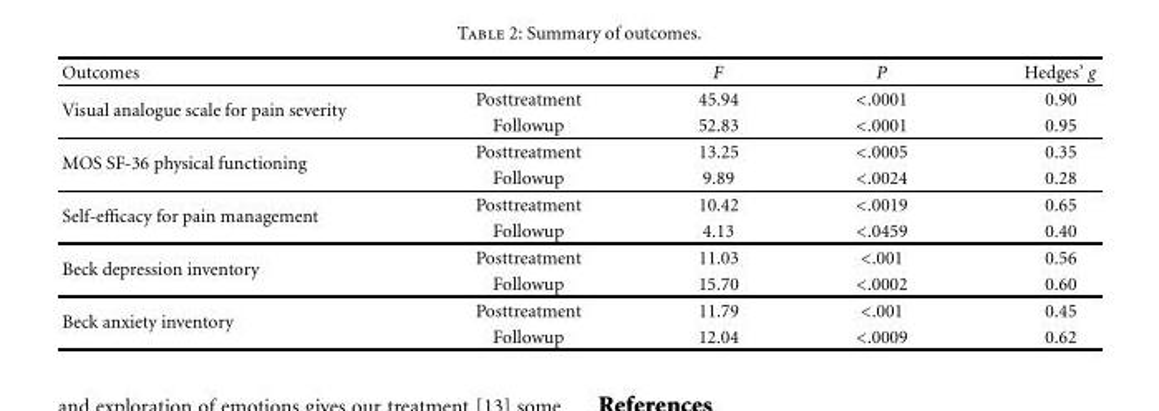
<table><thead><tr><td>Outcomes</td><td></td><td>F</td><td>P</td><td>Hedges’ g</td></tr></thead><tbody><tr><td rowspan="2">Visual analogue scale for pain severity</td><td>Posttreatment</td><td>45.94</td><td>&lt;.0001</td><td>0.90</td></tr><tr><td>Followup</td><td>52.83</td><td>&lt;.0001</td><td>0.95</td></tr><tr><td rowspan="2">MOS SF-36 physical functioning</td><td>Posttreatment</td><td>13.25</td><td>&lt;.0005</td><td>0.35</td></tr><tr><td>Followup</td><td>9.89</td><td>&lt;.0024</td><td>0.28</td></tr><tr><td rowspan="2">Self-efficacy for pain management</td><td>Posttreatment</td><td>10.42</td><td>&lt;.0019</td><td>0.65</td></tr><tr><td>Followup</td><td>4.13</td><td>&lt;.0459</td><td>0.40</td></tr><tr><td rowspan="2">Beck depression inventory</td><td>Posttreatment</td><td>11.03</td><td>&lt;.001</td><td>0.56</td></tr><tr><td>Followup</td><td>15.70</td><td>&lt;.0002</td><td>0.60</td></tr><tr><td rowspan="2">Beck anxiety inventory</td><td>Posttreatment</td><td>11.79</td><td>&lt;.001</td><td>0.45</td></tr><tr><td>Followup</td><td>12.04</td><td>&lt;.0009</td><td>0.62</td></tr></tbody></table>